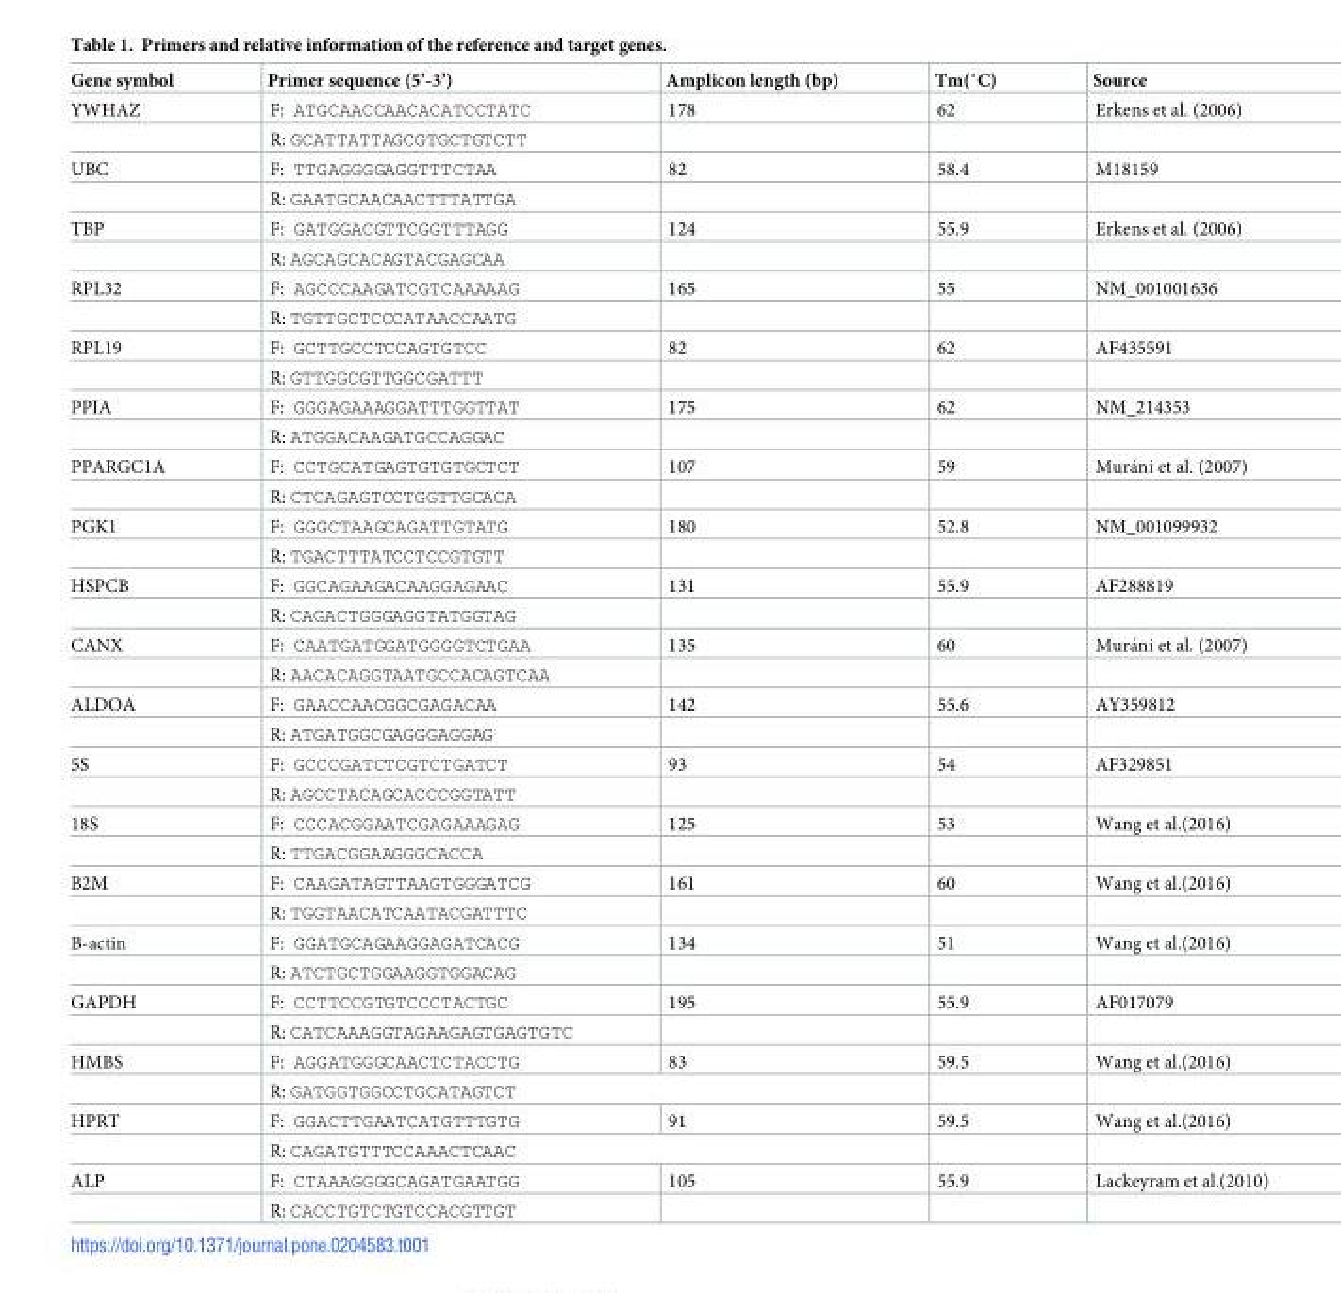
<table><thead><tr><td>Gene symbol</td><td>Primer sequence (5’-3’)</td><td>Amplicon length (bp)</td><td>Tm(˚C)</td><td>Source</td></tr></thead><tbody><tr><td rowspan="2">YWHAZ</td><td>F: ATGCAACCAACACATCCTATC</td><td>178</td><td>62</td><td>Erkens et al. (2006)</td></tr><tr><td>R: GCATTATTAGCGTGCTGTCTT</td><td></td><td></td><td></td></tr><tr><td rowspan="2">UBC</td><td>F: TTGAGGGGAGGTTTCTAA</td><td>82</td><td>58.4</td><td>M18159</td></tr><tr><td>R: GAATGCAACAACTTTATTGA</td><td></td><td></td><td></td></tr><tr><td rowspan="2">TBP</td><td>F: GATGGACGTTCGGTTTAGG</td><td>124</td><td>55.9</td><td>Erkens et al. (2006)</td></tr><tr><td>R: AGCAGCACAGTACGAGCAA</td><td></td><td></td><td></td></tr><tr><td rowspan="2">RPL32</td><td>F: AGCCCAAGATCGTCAAAAAG</td><td>165</td><td>55</td><td>NM_001001636</td></tr><tr><td>R: TGTTGCTCCCATAACCAATG</td><td></td><td></td><td></td></tr><tr><td rowspan="2">RPL19</td><td>F: GCTTGCCTCCAGTGTCC</td><td>82</td><td>62</td><td>AF435591</td></tr><tr><td>R: GTTGGCGTTGGCGATTT</td><td></td><td></td><td></td></tr><tr><td rowspan="2">PPIA</td><td>F: GGGAGAAAGGATTTGGTTAT</td><td>175</td><td>62</td><td>NM_214353</td></tr><tr><td>R: ATGGACAAGATGCCAGGAC</td><td></td><td></td><td></td></tr><tr><td rowspan="2">PPARGC1A</td><td>F: CCTGCATGAGTGTGTGCTCT</td><td>107</td><td>59</td><td>Mura´ni et al. (2007)</td></tr><tr><td>R: CTCAGAGTCCTGGTTGCACA</td><td></td><td></td><td></td></tr><tr><td rowspan="2">PGK1</td><td>F: GGGCTAAGCAGATTGTATG</td><td>180</td><td>52.8</td><td>NM_001099932</td></tr><tr><td>R: TGACTTTATCCTCCGTGTT</td><td></td><td></td><td></td></tr><tr><td rowspan="2">HSPCB</td><td>F: GGCAGAAGACAAGGAGAAC</td><td>131</td><td>55.9</td><td>AF288819</td></tr><tr><td>R: CAGACTGGGAGGTATGGTAG</td><td></td><td></td><td></td></tr><tr><td rowspan="2">CANX</td><td>F: CAATGATGGATGGGGTCTGAA</td><td>135</td><td>60</td><td>Mura´ni et al. (2007)</td></tr><tr><td>R: AACACAGGTAATGCCACAGTCAA</td><td></td><td></td><td></td></tr><tr><td rowspan="2">ALDOA</td><td>F: GAACCAACGGCGAGACAA</td><td>142</td><td>55.6</td><td>AY359812</td></tr><tr><td>R: ATGATGGCGAGGGAGGAG</td><td></td><td></td><td></td></tr><tr><td rowspan="2">5S</td><td>F: GCCCGATCTCGTCTGATCT</td><td>93</td><td>54</td><td>AF329851</td></tr><tr><td>R: AGCCTACAGCACCCGGTATT</td><td></td><td></td><td></td></tr><tr><td rowspan="2">18S</td><td>F: CCCACGGAATCGAGAAAGAG</td><td>125</td><td>53</td><td>Wang et al.(2016)</td></tr><tr><td>R: TTGACGGAAGGGCACCA</td><td></td><td></td><td></td></tr><tr><td rowspan="2">B2M</td><td>F: CAAGATAGTTAAGTGGGATCG</td><td>161</td><td>60</td><td>Wang et al.(2016)</td></tr><tr><td>R: TGGTAACATCAATACGATTTC</td><td></td><td></td><td></td></tr><tr><td rowspan="2">B-actin</td><td>F: GGATGCAGAAGGAGATCACG</td><td>134</td><td>51</td><td>Wang et al.(2016)</td></tr><tr><td>R: ATCTGCTGGAAGGTGGACAG</td><td></td><td></td><td></td></tr><tr><td rowspan="2">GAPDH</td><td>F: CCTTCCGTGTCCCTACTGC</td><td>195</td><td>55.9</td><td>AF017079</td></tr><tr><td>R: CATCAAAGGTAGAAGAGTGAGTGTC</td><td></td><td></td><td></td></tr><tr><td rowspan="2">HMBS</td><td>F: AGGATGGGCAACTCTACCTG</td><td>83</td><td>59.5</td><td>Wang et al.(2016)</td></tr><tr><td colspan="2">R: GATGGTGGCCTGCATAGTCT</td><td></td><td></td></tr><tr><td rowspan="2">HPRT</td><td>F: GGACTTGAATCATGTTTGTG</td><td>91</td><td>59.5</td><td>Wang et al.(2016)</td></tr><tr><td colspan="2">R: CAGATGTTTCCAAACTCAAC</td><td></td><td></td></tr><tr><td rowspan="2">ALP</td><td>F: CTAAAGGGGCAGATGAATGG</td><td>105</td><td>55.9</td><td>Lackeyram et al.(2010)</td></tr><tr><td>R: CACCTGTCTGTCCACGTTGT</td><td></td><td></td><td></td></tr></tbody></table>